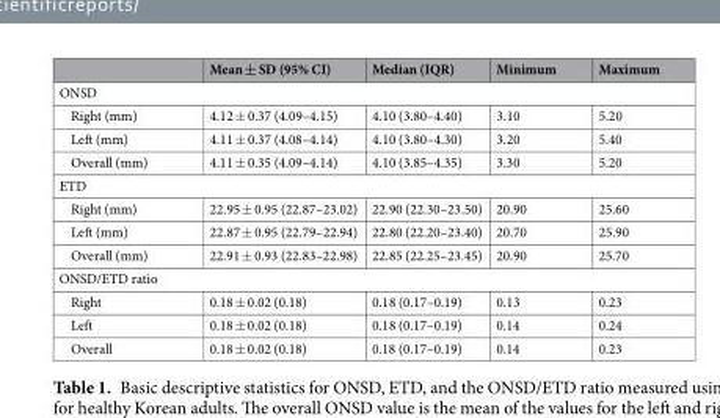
<table><thead><tr><td></td><td>Mean ± SD (95% CI)</td><td>Median (IQR)</td><td>Minimum</td><td>Maximum</td></tr></thead><tbody><tr><td colspan="5">ONSD</td></tr><tr><td>Right (mm)</td><td>4.12 ± 0.37 (4.09–4.15)</td><td>4.10 (3.80–4.40)</td><td>3.10</td><td>5.20</td></tr><tr><td>Left (mm)</td><td>4.11 ± 0.37 (4.08–4.14)</td><td>4.10 (3.80–4.30)</td><td>3.20</td><td>5.40</td></tr><tr><td>Overall (mm)</td><td>4.11 ± 0.35 (4.09–4.14)</td><td>4.10 (3.85–4.35)</td><td>3.30</td><td>5.20</td></tr><tr><td colspan="5">ETD</td></tr><tr><td>Right (mm)</td><td>22.95 ± 0.95 (22.87–23.02)</td><td>22.90 (22.30–23.50)</td><td>20.90</td><td>25.60</td></tr><tr><td>Left (mm)</td><td>22.87 ± 0.95 (22.79–22.94)</td><td>22.80 (22.20–23.40)</td><td>20.70</td><td>25.90</td></tr><tr><td>Overall (mm)</td><td>22.91 ± 0.93 (22.83–22.98)</td><td>22.85 (22.25–23.45)</td><td>20.90</td><td>25.70</td></tr><tr><td colspan="5">ONSD/ETD ratio</td></tr><tr><td>Right</td><td>0.18 ± 0.02 (0.18)</td><td>0.18 (0.17–0.19)</td><td>0.13</td><td>0.23</td></tr><tr><td>Left</td><td>0.18 ± 0.02 (0.18)</td><td>0.18 (0.17–0.19)</td><td>0.14</td><td>0.24</td></tr><tr><td>Overall</td><td>0.18 ± 0.02 (0.18)</td><td>0.18 (0.17–0.19)</td><td>0.14</td><td>0.23</td></tr></tbody></table>